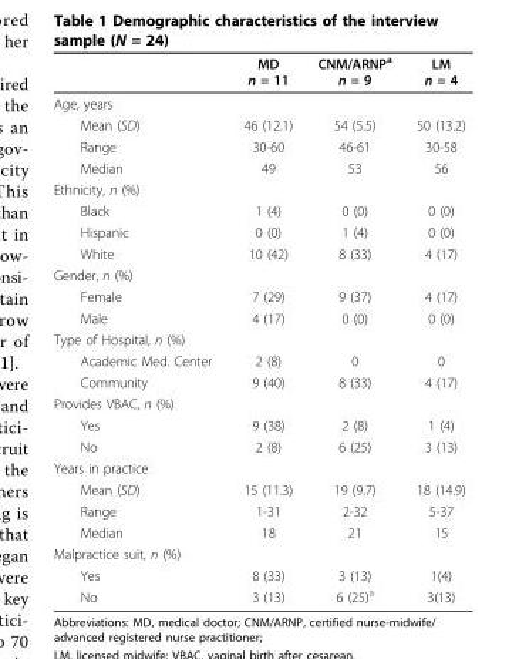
<table><thead><tr><td></td><td>MD n = 11</td><td>CNM/ARNP<sup>a</sup> n = 9</td><td>LM n = 4</td></tr></thead><tbody><tr><td colspan="4">Age, years</td></tr><tr><td>Mean (SD)</td><td>46 (12.1)</td><td>54 (5.5)</td><td>50 (13.2)</td></tr><tr><td>Range</td><td>30-60</td><td>46-61</td><td>30-58</td></tr><tr><td>Median</td><td>49</td><td>53</td><td>56</td></tr><tr><td colspan="4">Ethnicity, n (%)</td></tr><tr><td>Black</td><td>1 (4)</td><td>0 (0)</td><td>0 (0)</td></tr><tr><td>Hispanic</td><td>0 (0)</td><td>1 (4)</td><td>0 (0)</td></tr><tr><td>White</td><td>10 (42)</td><td>8 (33)</td><td>4 (17)</td></tr><tr><td colspan="4">Gender, n (%)</td></tr><tr><td>Female</td><td>7 (29)</td><td>9 (37)</td><td>4 (17)</td></tr><tr><td>Male</td><td>4 (17)</td><td>0 (0)</td><td>0 (0)</td></tr><tr><td colspan="4">Type of Hospital, n (%)</td></tr><tr><td>Academic Med. Center</td><td>2 (8)</td><td>0</td><td>0</td></tr><tr><td>Community</td><td>9 (40)</td><td>8 (33)</td><td>4 (17)</td></tr><tr><td colspan="4">Provides VBAC, n (%)</td></tr><tr><td>Yes</td><td>9 (38)</td><td>2 (8)</td><td>1 (4)</td></tr><tr><td>No</td><td>2 (8)</td><td>6 (25)</td><td>3 (13)</td></tr><tr><td colspan="4">Years in practice</td></tr><tr><td>Mean (SD)</td><td>15 (11.3)</td><td>19 (9.7)</td><td>18 (14.9)</td></tr><tr><td>Range</td><td>1-31</td><td>2-32</td><td>5-37</td></tr><tr><td>Median</td><td>18</td><td>21</td><td>15</td></tr><tr><td colspan="4">Malpractice suit, n (%)</td></tr><tr><td>Yes</td><td>8 (33)</td><td>3 (13)</td><td>1(4)</td></tr><tr><td>No</td><td>3 (13)</td><td>6 (25)<sup>a</sup></td><td>3(13)</td></tr></tbody></table>